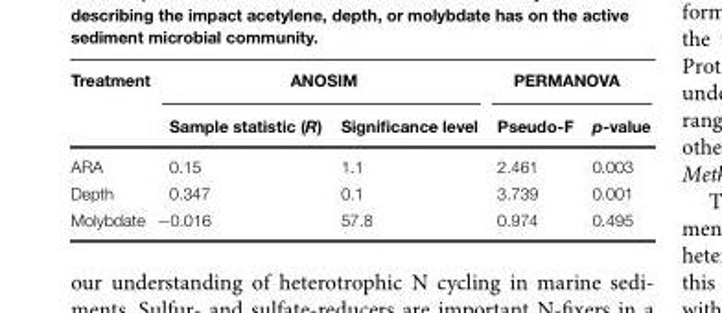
<table><thead><tr><td rowspan="2">Treatment</td><td colspan="2">ANOSIM</td><td colspan="2">PERMANOVA</td></tr><tr><td>Sample statistic (R)</td><td>Significance level</td><td>Pseudo-F</td><td>p-value</td></tr></thead><tbody><tr><td>ARA</td><td>0.15</td><td>1.1</td><td>2.461</td><td>0.003</td></tr><tr><td>Depth</td><td>0.347</td><td>0.1</td><td>3.739</td><td>0.001</td></tr><tr><td>Molybdate</td><td>−0.016</td><td>57.8</td><td>0.974</td><td>0.495</td></tr></tbody></table>